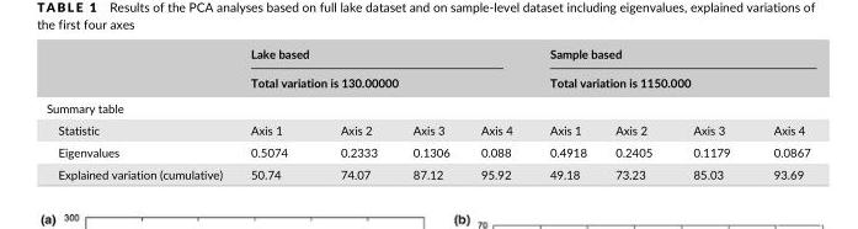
<table><thead><tr><td rowspan="2"></td><td rowspan="2" colspan="4">Lake based Total variation is 130.00000</td><td rowspan="2" colspan="4">Sample based Total variation is 1150.000</td></tr><tr></tr><tr><td colspan="9">Summary table</td></tr><tr><td>Statistic</td><td>Axis 1</td><td>Axis 2</td><td>Axis 3</td><td>Axis 4</td><td>Axis 1</td><td>Axis 2</td><td>Axis 3</td><td>Axis 4</td></tr></thead><tbody><tr><td>Eigenvalues</td><td>0.5074</td><td>0.2333</td><td>0.1306</td><td>0.088</td><td>0.4918</td><td>0.2405</td><td>0.1179</td><td>0.0867</td></tr><tr><td>Explained variation (cumulative)</td><td>50.74</td><td>74.07</td><td>87.12</td><td>95.92</td><td>49.18</td><td>73.23</td><td>85.03</td><td>93.69</td></tr></tbody></table>